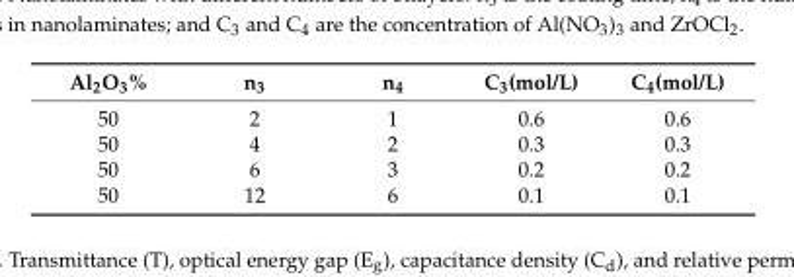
<table><thead><tr><td>Al<sub>2</sub>O<sub>3</sub>%</td><td>n<sub>3</sub></td><td>n<sub>4</sub></td><td>C<sub>3</sub>(mol/L)</td><td>C<sub>4</sub>(mol/L)</td></tr></thead><tbody><tr><td>50</td><td>2</td><td>1</td><td>0.6</td><td>0.6</td></tr><tr><td>50</td><td>4</td><td>2</td><td>0.3</td><td>0.3</td></tr><tr><td>50</td><td>6</td><td>3</td><td>0.2</td><td>0.2</td></tr><tr><td>50</td><td>12</td><td>6</td><td>0.1</td><td>0.1</td></tr></tbody></table>